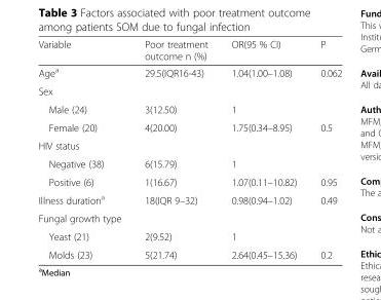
<table><thead><tr><td>Variable</td><td>Poor treatment outcome n (%)</td><td>OR(95 % CI)</td><td>P</td></tr></thead><tbody><tr><td>Age<sup>a</sup></td><td>29.5(IQR16-43)</td><td>1.04(1.00–1.08)</td><td>0.062</td></tr><tr><td colspan="4">Sex</td></tr><tr><td>Male (24)</td><td>3(12.50)</td><td>1</td><td></td></tr><tr><td>Female (20)</td><td>4(20.00)</td><td>1.75(0.34–8.95)</td><td>0.5</td></tr><tr><td colspan="4">HIV status</td></tr><tr><td>Negative (38)</td><td>6(15.79)</td><td>1</td><td></td></tr><tr><td>Positive (6)</td><td>1(16.67)</td><td>1.07(0.11–10.82)</td><td>0.95</td></tr><tr><td>Illness duration<sup>a</sup></td><td>18(IQR 9–32)</td><td>0.98(0.94–1.02)</td><td>0.49</td></tr><tr><td colspan="4">Fungal growth type</td></tr><tr><td>Yeast (21)</td><td>2(9.52)</td><td>1</td><td></td></tr><tr><td>Molds (23)</td><td>5(21.74)</td><td>2.64(0.45–15.36)</td><td>0.2</td></tr></tbody></table>